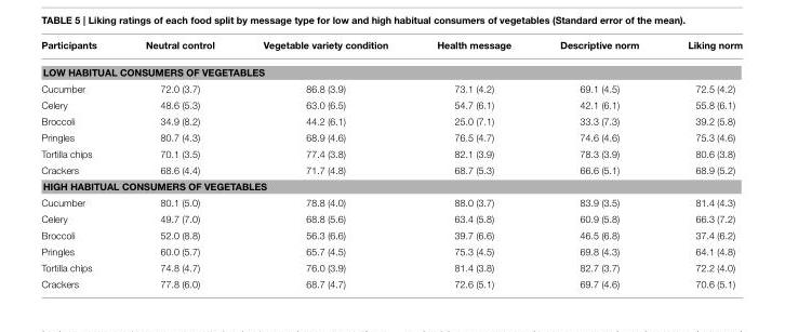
<table><thead><tr><td>Participants</td><td>Neutral control</td><td>Vegetable variety condition</td><td>Health message</td><td>Descriptive norm</td><td>Liking norm</td></tr></thead><tbody><tr><td colspan="6">LOW HABITUAL CONSUMERS OF VEGETABLES</td></tr><tr><td>Cucumber</td><td>72.0 (3.7)</td><td>86.8 (3.9)</td><td>73.1 (4.2)</td><td>69.1 (4.5)</td><td>72.5 (4.2)</td></tr><tr><td>Celery</td><td>48.6 (5.3)</td><td>63.0 (6.5)</td><td>54.7 (6.1)</td><td>42.1 (6.1)</td><td>55.8 (6.1)</td></tr><tr><td>Broccoli</td><td>34.9 (8.2)</td><td>44.2 (6.1)</td><td>25.0 (7.1)</td><td>33.3 (7.3)</td><td>39.2 (5.8)</td></tr><tr><td>Pringles</td><td>80.7 (4.3)</td><td>68.9 (4.6)</td><td>76.5 (4.7)</td><td>74.6 (4.6)</td><td>75.3 (4.6)</td></tr><tr><td>Tortilla chips</td><td>70.1 (3.5)</td><td>77.4 (3.8)</td><td>82.1 (3.9)</td><td>78.3 (3.9)</td><td>80.6 (3.8)</td></tr><tr><td>Crackers</td><td>68.6 (4.4)</td><td>71.7 (4.8)</td><td>68.7 (5.3)</td><td>66.6 (5.1)</td><td>68.9 (5.2)</td></tr><tr><td colspan="6">HIGH HABITUAL CONSUMERS OF VEGETABLES</td></tr><tr><td>Cucumber</td><td>80.1 (5.0)</td><td>78.8 (4.0)</td><td>88.0 (3.7)</td><td>83.9 (3.5)</td><td>81.4 (4.3)</td></tr><tr><td>Celery</td><td>49.7 (7.0)</td><td>68.8 (5.6)</td><td>63.4 (5.8)</td><td>60.9 (5.8)</td><td>66.3 (7.2)</td></tr><tr><td>Broccoli</td><td>52.0 (8.8)</td><td>56.3 (6.6)</td><td>39.7 (6.6)</td><td>46.5 (6.8)</td><td>37.4 (6.2)</td></tr><tr><td>Pringles</td><td>60.0 (5.7)</td><td>65.7 (4.5)</td><td>75.3 (4.5)</td><td>69.8 (4.3)</td><td>64.1 (4.8)</td></tr><tr><td>Tortilla chips</td><td>74.8 (4.7)</td><td>76.0 (3.9)</td><td>81.4 (3.8)</td><td>82.7 (3.7)</td><td>72.2 (4.0)</td></tr><tr><td>Crackers</td><td>77.8 (6.0)</td><td>68.7 (4.7)</td><td>72.6 (5.1)</td><td>69.7 (4.6)</td><td>70.6 (5.1)</td></tr></tbody></table>